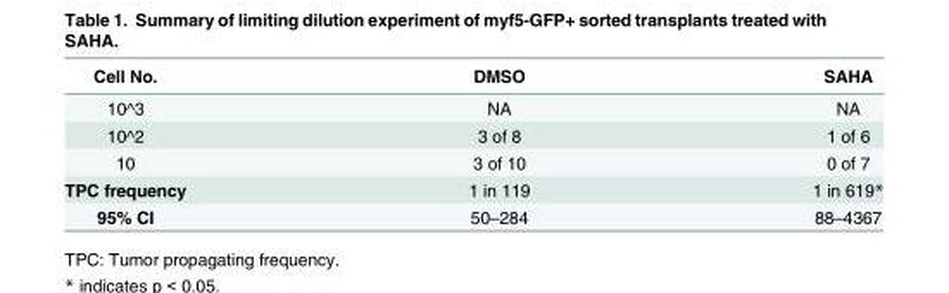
<table><thead><tr><td>Cell No.</td><td>DMSO</td><td>SAHA</td></tr></thead><tbody><tr><td>10^3</td><td>NA</td><td>NA</td></tr><tr><td>10^2</td><td>3 of 8</td><td>1 of 6</td></tr><tr><td>10</td><td>3 of 10</td><td>0 of 7</td></tr><tr><td>TPC frequency</td><td>1 in 119</td><td>1 in 619*</td></tr><tr><td>95% CI</td><td>50–284</td><td>88–4367</td></tr></tbody></table>